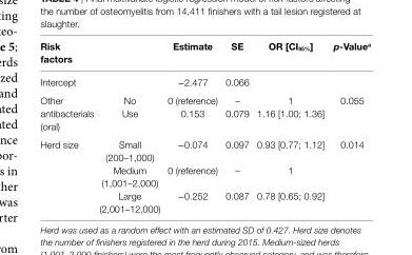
<table><thead><tr><td>risk factors</td><td></td><td>estimate</td><td>se</td><td>Or [ci<sub>95%</sub>]</td><td>p-Value<sup>a</sup></td></tr></thead><tbody><tr><td>Intercept</td><td></td><td>−2.477</td><td>0.066</td><td></td><td></td></tr><tr><td rowspan="2">Other antibacterials (oral)</td><td>No</td><td>0 (reference)</td><td>–</td><td>1</td><td rowspan="2">0.055</td></tr><tr><td>Use</td><td>0.153</td><td>0.079</td><td>1.16 [1.00; 1.36]</td></tr><tr><td rowspan="3">Herd size</td><td>Small (200–1,000)</td><td>−0.074</td><td>0.097</td><td>0.93 [0.77; 1.12]</td><td rowspan="3">0.014</td></tr><tr><td>Medium (1,001–2,000)</td><td>0 (reference)</td><td>–</td><td>1</td></tr><tr><td>Large (2,001–12,000)</td><td>−0.252</td><td>0.087</td><td>0.78 [0.65; 0.92]</td></tr></tbody></table>